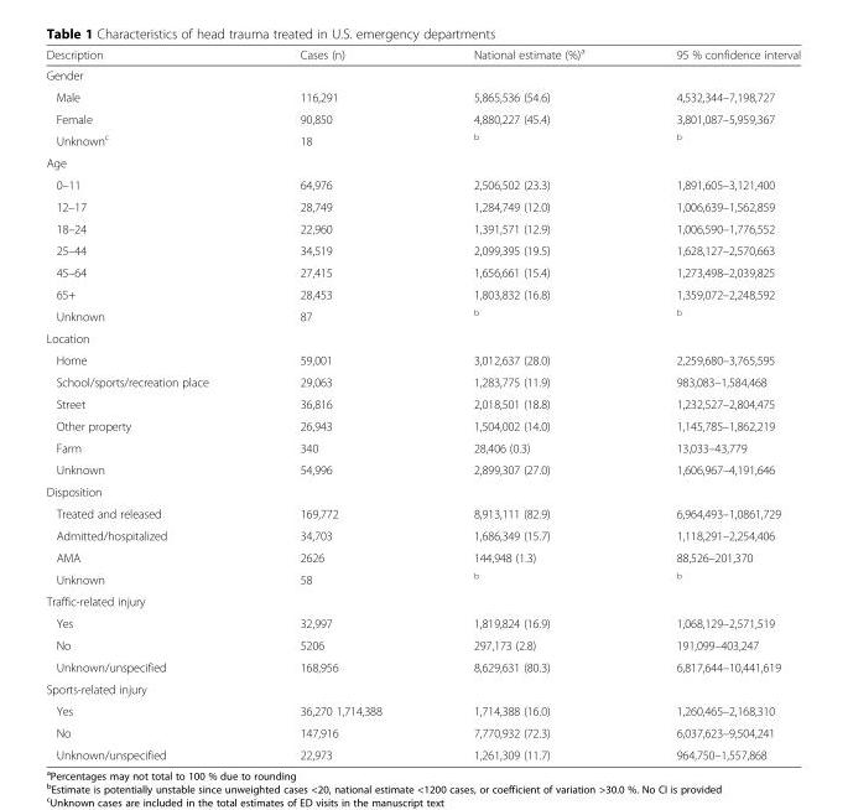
<table><thead><tr><td>Description</td><td>Cases (n)</td><td>National estimate (%)<sup>a</sup></td><td>95 % confidence interval</td></tr></thead><tbody><tr><td colspan="4">Gender</td></tr><tr><td>Male</td><td>116,291</td><td>5,865,536 (54.6)</td><td>4,532,344–7,198,727</td></tr><tr><td>Female</td><td>90,850</td><td>4,880,227 (45.4)</td><td>3,801,087–5,959,367</td></tr><tr><td>Unknown<sup>c</sup></td><td>18</td><td><sup>b</sup></td><td><sup>b</sup></td></tr><tr><td colspan="4">Age</td></tr><tr><td>0–11</td><td>64,976</td><td>2,506,502 (23.3)</td><td>1,891,605–3,121,400</td></tr><tr><td>12–17</td><td>28,749</td><td>1,284,749 (12.0)</td><td>1,006,639–1,562,859</td></tr><tr><td>18–24</td><td>22,960</td><td>1,391,571 (12.9)</td><td>1,006,590–1,776,552</td></tr><tr><td>25–44</td><td>34,519</td><td>2,099,395 (19.5)</td><td>1,628,127–2,570,663</td></tr><tr><td>45–64</td><td>27,415</td><td>1,656,661 (15.4)</td><td>1,273,498–2,039,825</td></tr><tr><td>65+</td><td>28,453</td><td>1,803,832 (16.8)</td><td>1,359,072–2,248,592</td></tr><tr><td>Unknown</td><td>87</td><td><sup>b</sup></td><td><sup>b</sup></td></tr><tr><td colspan="4">Location</td></tr><tr><td>Home</td><td>59,001</td><td>3,012,637 (28.0)</td><td>2,259,680–3,765,595</td></tr><tr><td>School/sports/recreation place</td><td>29,063</td><td>1,283,775 (11.9)</td><td>983,083–1,584,468</td></tr><tr><td>Street</td><td>36,816</td><td>2,018,501 (18.8)</td><td>1,232,527–2,804,475</td></tr><tr><td>Other property</td><td>26,943</td><td>1,504,002 (14.0)</td><td>1,145,785–1,862,219</td></tr><tr><td>Farm</td><td>340</td><td>28,406 (0.3)</td><td>13,033–43,779</td></tr><tr><td>Unknown</td><td>54,996</td><td>2,899,307 (27.0)</td><td>1,606,967–4,191,646</td></tr><tr><td colspan="4">Disposition</td></tr><tr><td>Treated and released</td><td>169,772</td><td>8,913,111 (82.9)</td><td>6,964,493–1,0861,729</td></tr><tr><td>Admitted/hospitalized</td><td>34,703</td><td>1,686,349 (15.7)</td><td>1,118,291–2,254,406</td></tr><tr><td>AMA</td><td>2626</td><td>144,948 (1.3)</td><td>88,526–201,370</td></tr><tr><td>Unknown</td><td>58</td><td><sup>b</sup></td><td><sup>b</sup></td></tr><tr><td colspan="4">Traffic-related injury</td></tr><tr><td>Yes</td><td>32,997</td><td>1,819,824 (16.9)</td><td>1,068,129–2,571,519</td></tr><tr><td>No</td><td>5206</td><td>297,173 (2.8)</td><td>191,099–403,247</td></tr><tr><td>Unknown/unspecified</td><td>168,956</td><td>8,629,631 (80.3)</td><td>6,817,644–10,441,619</td></tr><tr><td colspan="4">Sports-related injury</td></tr><tr><td>Yes</td><td>36,270 1,714,388</td><td>1,714,388 (16.0)</td><td>1,260,465–2,168,310</td></tr><tr><td>No</td><td>147,916</td><td>7,770,932 (72.3)</td><td>6,037,623–9,504,241</td></tr><tr><td>Unknown/unspecified</td><td>22,973</td><td>1,261,309 (11.7)</td><td>964,750–1,557,868</td></tr></tbody></table>